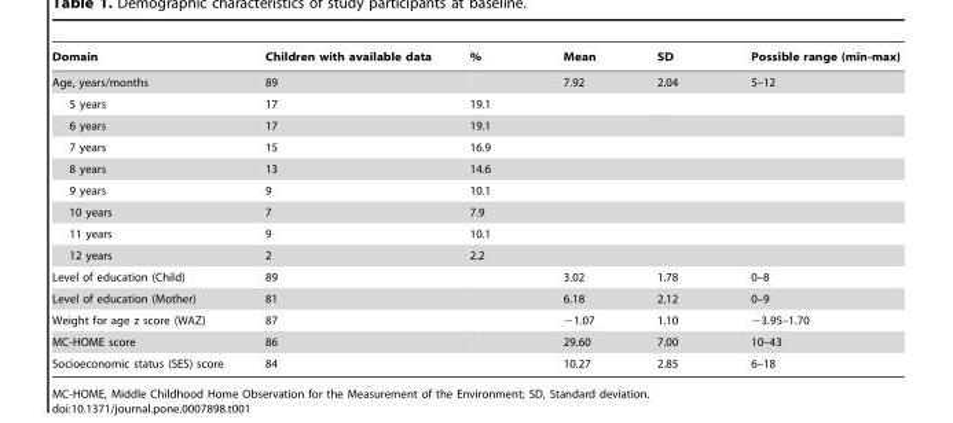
<table><thead><tr><td>Domain</td><td>Children with available data</td><td>%</td><td>Mean</td><td>SD</td><td>Possible range (min-max)</td></tr></thead><tbody><tr><td>Age, years/months</td><td>89</td><td></td><td>7.92</td><td>2.04</td><td>5–12</td></tr><tr><td>5 years</td><td>17</td><td>19.1</td><td></td><td></td><td></td></tr><tr><td>6 years</td><td>17</td><td>19.1</td><td></td><td></td><td></td></tr><tr><td>7 years</td><td>15</td><td>16.9</td><td></td><td></td><td></td></tr><tr><td>8 years</td><td>13</td><td>14.6</td><td></td><td></td><td></td></tr><tr><td>9 years</td><td>9</td><td>10.1</td><td></td><td></td><td></td></tr><tr><td>10 years</td><td>7</td><td>7.9</td><td></td><td></td><td></td></tr><tr><td>11 years</td><td>9</td><td>10.1</td><td></td><td></td><td></td></tr><tr><td>12 years</td><td>2</td><td>2.2</td><td></td><td></td><td></td></tr><tr><td>Level of education (Child)</td><td>89</td><td></td><td>3.02</td><td>1.78</td><td>0–8</td></tr><tr><td>Level of education (Mother)</td><td>81</td><td></td><td>6.18</td><td>2.12</td><td>0–9</td></tr><tr><td>Weight for age z score (WAZ)</td><td>87</td><td></td><td>−1.07</td><td>1.10</td><td>−3.95–1.70</td></tr><tr><td>MC-HOME score</td><td>86</td><td></td><td>29.60</td><td>7.00</td><td>10–43</td></tr><tr><td>Socioeconomic status (SES) score</td><td>84</td><td></td><td>10.27</td><td>2.85</td><td>6–18</td></tr></tbody></table>